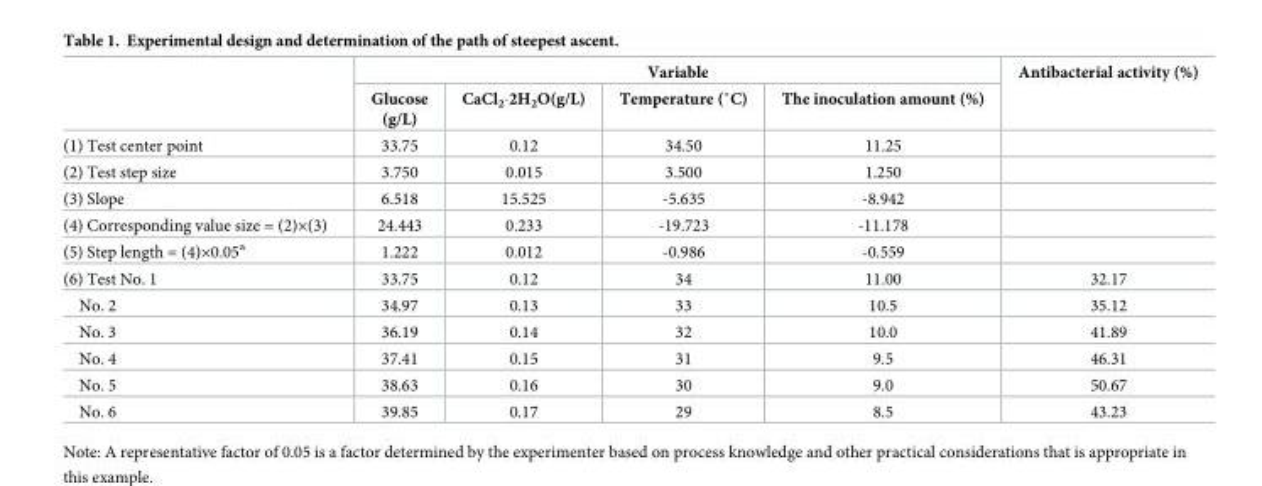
<table><thead><tr><td rowspan="2"></td><td colspan="4">Variable</td><td rowspan="2">Antibacterial activity (%)</td></tr><tr><td>Glucose (g/L)</td><td>CaCl<sub>2</sub>·2H<sub>2</sub>O(g/L)</td><td>Temperature (˚C)</td><td>The inoculation amount (%)</td></tr></thead><tbody><tr><td>(1) Test center point</td><td>33.75</td><td>0.12</td><td>34.50</td><td>11.25</td><td></td></tr><tr><td>(2) Test step size</td><td>3.750</td><td>0.015</td><td>3.500</td><td>1.250</td><td></td></tr><tr><td>(3) Slope</td><td>6.518</td><td>15.525</td><td>-5.635</td><td>-8.942</td><td></td></tr><tr><td>(4) Corresponding value size = (2)×(3)</td><td>24.443</td><td>0.233</td><td>-19.723</td><td>-11.178</td><td></td></tr><tr><td>(5) Step length = (4)×0.05<sup>a</sup></td><td>1.222</td><td>0.012</td><td>-0.986</td><td>-0.559</td><td></td></tr><tr><td>(6) Test No. 1</td><td>33.75</td><td>0.12</td><td>34</td><td>11.00</td><td>32.17</td></tr><tr><td>No. 2</td><td>34.97</td><td>0.13</td><td>33</td><td>10.5</td><td>35.12</td></tr><tr><td>No. 3</td><td>36.19</td><td>0.14</td><td>32</td><td>10.0</td><td>41.89</td></tr><tr><td>No. 4</td><td>37.41</td><td>0.15</td><td>31</td><td>9.5</td><td>46.31</td></tr><tr><td>No. 5</td><td>38.63</td><td>0.16</td><td>30</td><td>9.0</td><td>50.67</td></tr><tr><td>No. 6</td><td>39.85</td><td>0.17</td><td>29</td><td>8.5</td><td>43.23</td></tr></tbody></table>